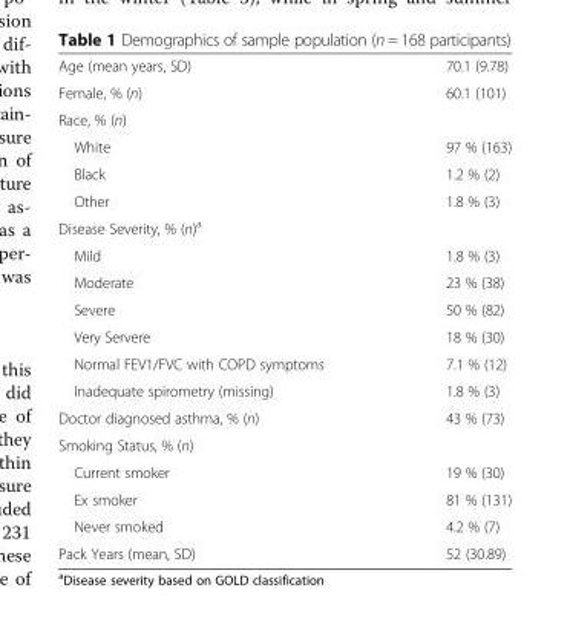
<table><tbody><tr><td>Age (mean years, SD)</td><td>70.1 (9.78)</td></tr><tr><td>Female, % (n)</td><td>60.1 (101)</td></tr><tr><td colspan="2">Race, % (n)</td></tr><tr><td>White</td><td>97 % (163)</td></tr><tr><td>Black</td><td>1.2 % (2)</td></tr><tr><td>Other</td><td>1.8 % (3)</td></tr><tr><td colspan="2">Disease Severity, % (n)<sup>a</sup></td></tr><tr><td>Mild</td><td>1.8 % (3)</td></tr><tr><td>Moderate</td><td>23 % (38)</td></tr><tr><td>Severe</td><td>50 % (82)</td></tr><tr><td>Very Servere</td><td>18 % (30)</td></tr><tr><td>Normal FEV1/FVC with COPD symptoms</td><td>7.1 % (12)</td></tr><tr><td>Inadequate spirometry (missing)</td><td>1.8 % (3)</td></tr><tr><td>Doctor diagnosed asthma, % (n)</td><td>43 % (73)</td></tr><tr><td colspan="2">Smoking Status, % (n)</td></tr><tr><td>Current smoker</td><td>19 % (30)</td></tr><tr><td>Ex smoker</td><td>81 % (131)</td></tr><tr><td>Never smoked</td><td>4.2 % (7)</td></tr><tr><td>Pack Years (mean, SD)</td><td>52 (30.89)</td></tr></tbody></table>